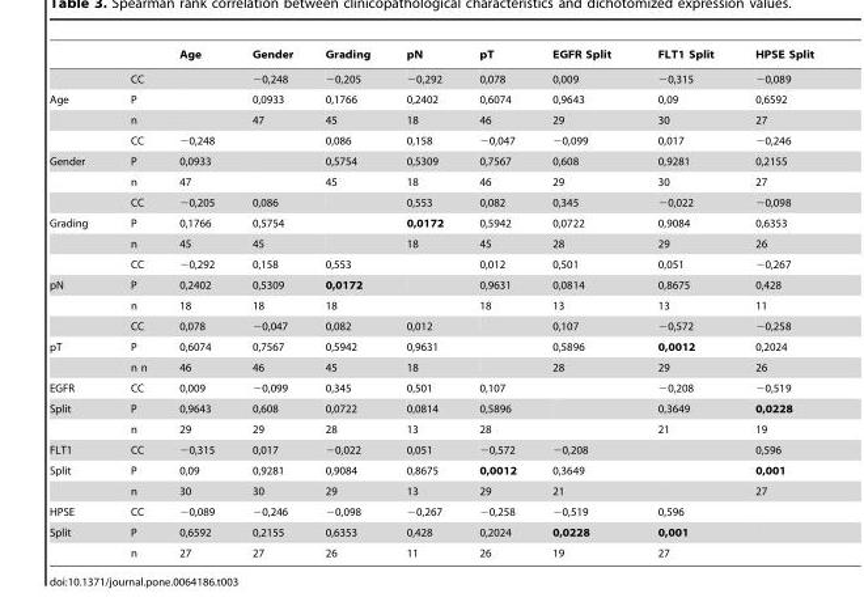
<table><thead><tr><td></td><td></td><td>Age</td><td>Gender</td><td>Grading</td><td>pN</td><td>pT</td><td>EGFR Split</td><td>FLT1 Split</td><td>HPSE Split</td></tr></thead><tbody><tr><td></td><td>CC</td><td></td><td>−0,248</td><td>−0,205</td><td>−0,292</td><td>0,078</td><td>0,009</td><td>−0,315</td><td>−0,089</td></tr><tr><td rowspan="3">Age</td><td>P</td><td></td><td>0,0933</td><td>0,1766</td><td>0,2402</td><td>0,6074</td><td>0,9643</td><td>0,09</td><td>0,6592</td></tr><tr><td>n</td><td></td><td>47</td><td>45</td><td>18</td><td>46</td><td>29</td><td>30</td><td>27</td></tr><tr><td>CC</td><td>−0,248</td><td></td><td>0,086</td><td>0,158</td><td>−0,047</td><td>−0,099</td><td>0,017</td><td>−0,246</td></tr><tr><td rowspan="3">Gender</td><td>P</td><td>0,0933</td><td></td><td>0,5754</td><td>0,5309</td><td>0,7567</td><td>0,608</td><td>0,9281</td><td>0,2155</td></tr><tr><td>n</td><td>47</td><td></td><td>45</td><td>18</td><td>46</td><td>29</td><td>30</td><td>27</td></tr><tr><td>CC</td><td>−0,205</td><td>0,086</td><td></td><td>0,553</td><td>0,082</td><td>0,345</td><td>−0,022</td><td>−0,098</td></tr><tr><td rowspan="3">Grading</td><td>P</td><td>0,1766</td><td>0,5754</td><td></td><td>0,0172</td><td>0,5942</td><td>0,0722</td><td>0,9084</td><td>0,6353</td></tr><tr><td>n</td><td>45</td><td>45</td><td></td><td>18</td><td>45</td><td>28</td><td>29</td><td>26</td></tr><tr><td>CC</td><td>−0,292</td><td>0,158</td><td>0,553</td><td></td><td>0,012</td><td>0,501</td><td>0,051</td><td>−0,267</td></tr><tr><td rowspan="3">pN</td><td>P</td><td>0,2402</td><td>0,5309</td><td>0,0172</td><td></td><td>0,9631</td><td>0,0814</td><td>0,8675</td><td>0,428</td></tr><tr><td>n</td><td>18</td><td>18</td><td>18</td><td></td><td>18</td><td>13</td><td>13</td><td>11</td></tr><tr><td>CC</td><td>0,078</td><td>−0,047</td><td>0,082</td><td>0,012</td><td></td><td>0,107</td><td>−0,572</td><td>−0,258</td></tr><tr><td rowspan="2">pT</td><td>P</td><td>0,6074</td><td>0,7567</td><td>0,5942</td><td>0,9631</td><td></td><td>0,5896</td><td>0,0012</td><td>0,2024</td></tr><tr><td>n n</td><td>46</td><td>46</td><td>45</td><td>18</td><td></td><td>28</td><td>29</td><td>26</td></tr><tr><td>EGFR</td><td>CC</td><td>0,009</td><td>−0,099</td><td>0,345</td><td>0,501</td><td>0,107</td><td></td><td>−0,208</td><td>−0,519</td></tr><tr><td rowspan="2">Split</td><td>P</td><td>0,9643</td><td>0,608</td><td>0,0722</td><td>0,0814</td><td>0,5896</td><td></td><td>0,3649</td><td>0,0228</td></tr><tr><td>n</td><td>29</td><td>29</td><td>28</td><td>13</td><td>28</td><td></td><td>21</td><td>19</td></tr><tr><td>FLT1</td><td>CC</td><td>−0,315</td><td>0,017</td><td>−0,022</td><td>0,051</td><td>−0,572</td><td>−0,208</td><td></td><td>0,596</td></tr><tr><td rowspan="2">Split</td><td>P</td><td>0,09</td><td>0,9281</td><td>0,9084</td><td>0,8675</td><td>0,0012</td><td>0,3649</td><td></td><td>0,001</td></tr><tr><td>n</td><td>30</td><td>30</td><td>29</td><td>13</td><td>29</td><td>21</td><td></td><td>27</td></tr><tr><td>HPSE</td><td>CC</td><td>−0,089</td><td>−0,246</td><td>−0,098</td><td>−0,267</td><td>−0,258</td><td>−0,519</td><td>0,596</td><td></td></tr><tr><td rowspan="2">Split</td><td>P</td><td>0,6592</td><td>0,2155</td><td>0,6353</td><td>0,428</td><td>0,2024</td><td>0,0228</td><td>0,001</td><td></td></tr><tr><td>n</td><td>27</td><td>27</td><td>26</td><td>11</td><td>26</td><td>19</td><td>27</td><td></td></tr></tbody></table>